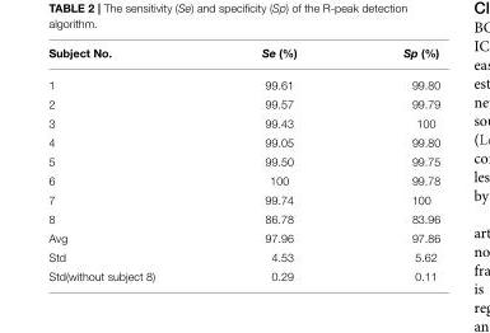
<table><thead><tr><td>Subject No.</td><td>Se (%)</td><td>Sp (%)</td></tr></thead><tbody><tr><td>1</td><td>99.61</td><td>99.80</td></tr><tr><td>2</td><td>99.57</td><td>99.79</td></tr><tr><td>3</td><td>99.43</td><td>100</td></tr><tr><td>4</td><td>99.05</td><td>99.80</td></tr><tr><td>5</td><td>99.50</td><td>99.75</td></tr><tr><td>6</td><td>100</td><td>99.78</td></tr><tr><td>7</td><td>99.74</td><td>100</td></tr><tr><td>8</td><td>86.78</td><td>83.96</td></tr><tr><td>Avg</td><td>97.96</td><td>97.86</td></tr><tr><td>Std</td><td>4.53</td><td>5.62</td></tr><tr><td>Std(without subject 8)</td><td>0.29</td><td>0.11</td></tr></tbody></table>